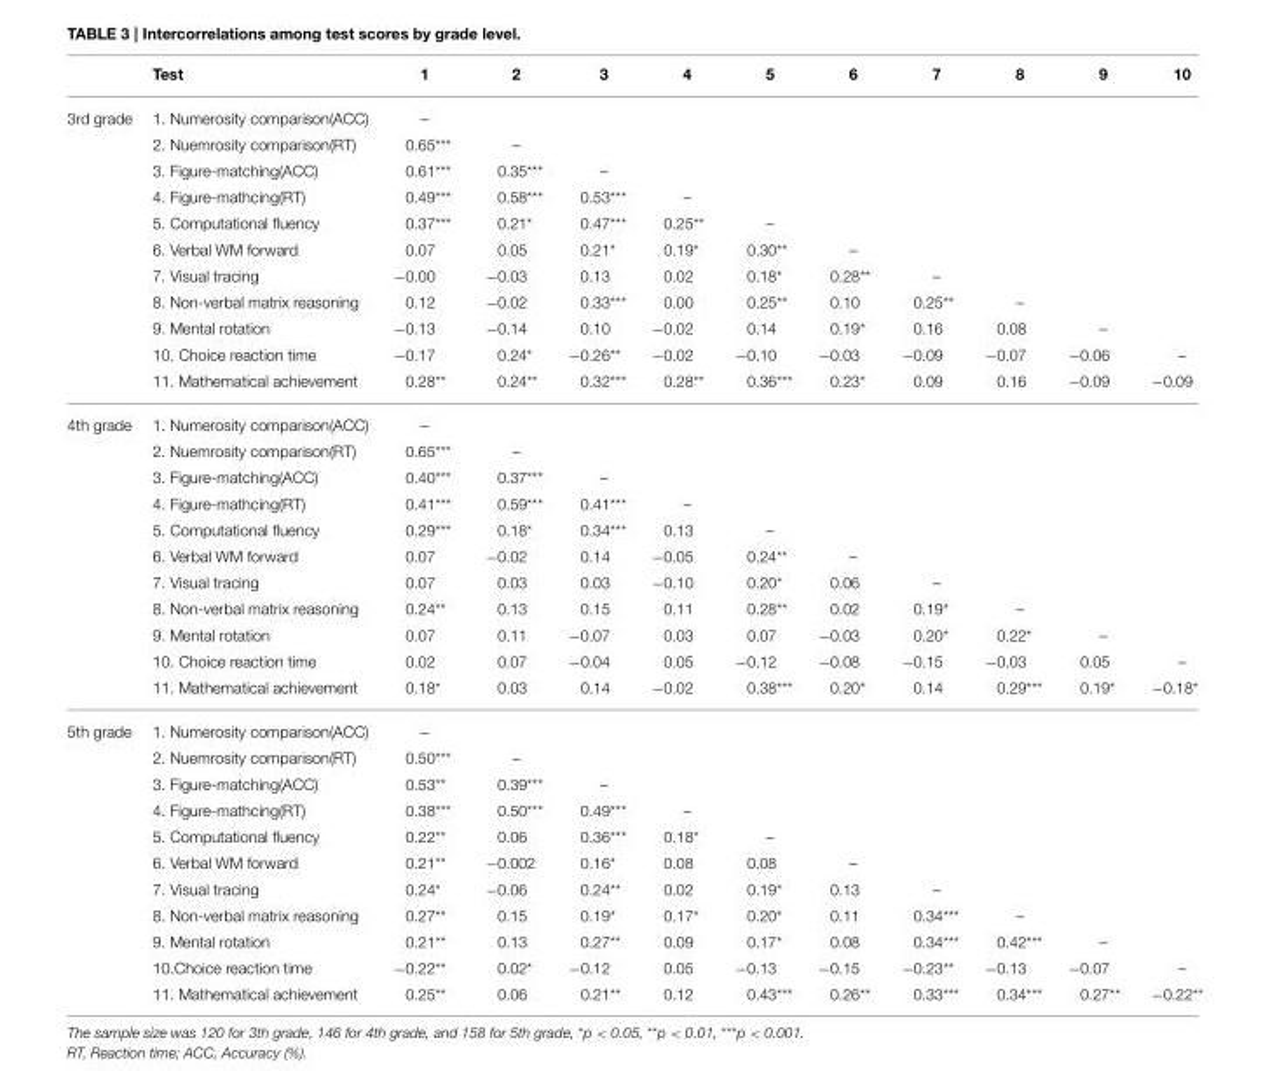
<table><thead><tr><td></td><td>Test</td><td>1</td><td>2</td><td>3</td><td>4</td><td>5</td><td>6</td><td>7</td><td>8</td><td>9</td><td>10</td></tr></thead><tbody><tr><td rowspan="11">3rd grade</td><td>1. Numerosity comparison(ACC)</td><td>–</td><td></td><td></td><td></td><td></td><td></td><td></td><td></td><td></td><td></td></tr><tr><td>2. Nuemrosity comparison(RT)</td><td>0.65***</td><td>–</td><td></td><td></td><td></td><td></td><td></td><td></td><td></td><td></td></tr><tr><td>3. Figure-matching(ACC)</td><td>0.61***</td><td>0.35***</td><td>–</td><td></td><td></td><td></td><td></td><td></td><td></td><td></td></tr><tr><td>4. Figure-mathcing(RT)</td><td>0.49***</td><td>0.58***</td><td>0.53***</td><td>–</td><td></td><td></td><td></td><td></td><td></td><td></td></tr><tr><td>5. Computational fluency</td><td>0.37***</td><td>0.21*</td><td>0.47***</td><td>0.25**</td><td>–</td><td></td><td></td><td></td><td></td><td></td></tr><tr><td>6. Verbal WM forward</td><td>0.07</td><td>0.05</td><td>0.21*</td><td>0.19*</td><td>0.30**</td><td>–</td><td></td><td></td><td></td><td></td></tr><tr><td>7. Visual tracing</td><td>−0.00</td><td>−0.03</td><td>0.13</td><td>0.02</td><td>0.18*</td><td>0.28**</td><td>–</td><td></td><td></td><td></td></tr><tr><td>8. Non-verbal matrix reasoning</td><td>0.12</td><td>−0.02</td><td>0.33***</td><td>0.00</td><td>0.25**</td><td>0.10</td><td>0.25**</td><td>–</td><td></td><td></td></tr><tr><td>9. Mental rotation</td><td>−0.13</td><td>−0.14</td><td>0.10</td><td>−0.02</td><td>0.14</td><td>0.19*</td><td>0.16</td><td>0.08</td><td>–</td><td></td></tr><tr><td>10. Choice reaction time</td><td>−0.17</td><td>0.24*</td><td>−0.26**</td><td>−0.02</td><td>−0.10</td><td>−0.03</td><td>−0.09</td><td>−0.07</td><td>−0.06</td><td>–</td></tr><tr><td>11. Mathematical achievement</td><td>0.28**</td><td>0.24**</td><td>0.32***</td><td>0.28**</td><td>0.36***</td><td>0.23*</td><td>0.09</td><td>0.16</td><td>−0.09</td><td>−0.09</td></tr><tr><td rowspan="11">4th grade</td><td>1. Numerosity comparison(ACC)</td><td>–</td><td></td><td></td><td></td><td></td><td></td><td></td><td></td><td></td><td></td></tr><tr><td>2. Nuemrosity comparison(RT)</td><td>0.65***</td><td>–</td><td></td><td></td><td></td><td></td><td></td><td></td><td></td><td></td></tr><tr><td>3. Figure-matching(ACC)</td><td>0.40***</td><td>0.37***</td><td>–</td><td></td><td></td><td></td><td></td><td></td><td></td><td></td></tr><tr><td>4. Figure-mathcing(RT)</td><td>0.41***</td><td>0.59***</td><td>0.41***</td><td>–</td><td></td><td></td><td></td><td></td><td></td><td></td></tr><tr><td>5. Computational fluency</td><td>0.29***</td><td>0.18*</td><td>0.34***</td><td>0.13</td><td>–</td><td></td><td></td><td></td><td></td><td></td></tr><tr><td>6. Verbal WM forward</td><td>0.07</td><td>−0.02</td><td>0.14</td><td>−0.05</td><td>0.24**</td><td>–</td><td></td><td></td><td></td><td></td></tr><tr><td>7. Visual tracing</td><td>0.07</td><td>0.03</td><td>0.03</td><td>−0.10</td><td>0.20*</td><td>0.06</td><td>–</td><td></td><td></td><td></td></tr><tr><td>8. Non-verbal matrix reasoning</td><td>0.24**</td><td>0.13</td><td>0.15</td><td>0.11</td><td>0.28**</td><td>0.02</td><td>0.19*</td><td>–</td><td></td><td></td></tr><tr><td>9. Mental rotation</td><td>0.07</td><td>0.11</td><td>−0.07</td><td>0.03</td><td>0.07</td><td>−0.03</td><td>0.20*</td><td>0.22*</td><td>–</td><td></td></tr><tr><td>10. Choice reaction time</td><td>0.02</td><td>0.07</td><td>−0.04</td><td>0.05</td><td>−0.12</td><td>−0.08</td><td>−0.15</td><td>−0.03</td><td>0.05</td><td>–</td></tr><tr><td>11. Mathematical achievement</td><td>0.18*</td><td>0.03</td><td>0.14</td><td>−0.02</td><td>0.38***</td><td>0.20*</td><td>0.14</td><td>0.29***</td><td>0.19*</td><td>−0.18*</td></tr><tr><td rowspan="11">5th grade</td><td>1. Numerosity comparison(ACC)</td><td>–</td><td></td><td></td><td></td><td></td><td></td><td></td><td></td><td></td><td></td></tr><tr><td>2. Nuemrosity comparison(RT)</td><td>0.50***</td><td>–</td><td></td><td></td><td></td><td></td><td></td><td></td><td></td><td></td></tr><tr><td>3. Figure-matching(ACC)</td><td>0.53**</td><td>0.39***</td><td>–</td><td></td><td></td><td></td><td></td><td></td><td></td><td></td></tr><tr><td>4. Figure-mathcing(RT)</td><td>0.38***</td><td>0.50***</td><td>0.49***</td><td>–</td><td></td><td></td><td></td><td></td><td></td><td></td></tr><tr><td>5. Computational fluency</td><td>0.22**</td><td>0.06</td><td>0.36***</td><td>0.18*</td><td>–</td><td></td><td></td><td></td><td></td><td></td></tr><tr><td>6. Verbal WM forward</td><td>0.21**</td><td>−0.002</td><td>0.16*</td><td>0.08</td><td>0.08</td><td>–</td><td></td><td></td><td></td><td></td></tr><tr><td>7. Visual tracing</td><td>0.24*</td><td>−0.06</td><td>0.24**</td><td>0.02</td><td>0.19*</td><td>0.13</td><td>–</td><td></td><td></td><td></td></tr><tr><td>8. Non-verbal matrix reasoning</td><td>0.27**</td><td>0.15</td><td>0.19*</td><td>0.17*</td><td>0.20*</td><td>0.11</td><td>0.34***</td><td>–</td><td></td><td></td></tr><tr><td>9. Mental rotation</td><td>0.21**</td><td>0.13</td><td>0.27**</td><td>0.09</td><td>0.17*</td><td>0.08</td><td>0.34***</td><td>0.42***</td><td>–</td><td></td></tr><tr><td>10.Choice reaction time</td><td>−0.22**</td><td>0.02*</td><td>−0.12</td><td>0.05</td><td>−0.13</td><td>−0.15</td><td>−0.23**</td><td>−0.13</td><td>−0.07</td><td>–</td></tr><tr><td>11. Mathematical achievement</td><td>0.25**</td><td>0.06</td><td>0.21**</td><td>0.12</td><td>0.43***</td><td>0.26**</td><td>0.33***</td><td>0.34***</td><td>0.27**</td><td>−0.22**</td></tr></tbody></table>